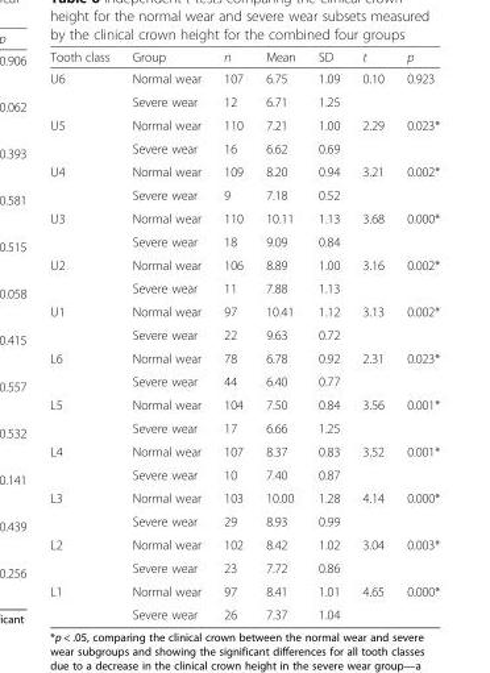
<table><thead><tr><td>Tooth class</td><td>Group</td><td>n</td><td>Mean</td><td>SD</td><td>t</td><td>p</td></tr></thead><tbody><tr><td rowspan="2">U6</td><td>Normal wear</td><td>107</td><td>6.75</td><td>1.09</td><td rowspan="2">0.10</td><td rowspan="2">0.923</td></tr><tr><td>Severe wear</td><td>12</td><td>6.71</td><td>1.25</td></tr><tr><td rowspan="2">U5</td><td>Normal wear</td><td>110</td><td>7.21</td><td>1.00</td><td rowspan="2">2.29</td><td rowspan="2">0.023*</td></tr><tr><td>Severe wear</td><td>16</td><td>6.62</td><td>0.69</td></tr><tr><td rowspan="2">U4</td><td>Normal wear</td><td>109</td><td>8.20</td><td>0.94</td><td rowspan="2">3.21</td><td rowspan="2">0.002*</td></tr><tr><td>Severe wear</td><td>9</td><td>7.18</td><td>0.52</td></tr><tr><td rowspan="2">U3</td><td>Normal wear</td><td>110</td><td>10.11</td><td>1.13</td><td rowspan="2">3.68</td><td rowspan="2">0.000*</td></tr><tr><td>Severe wear</td><td>18</td><td>9.09</td><td>0.84</td></tr><tr><td rowspan="2">U2</td><td>Normal wear</td><td>106</td><td>8.89</td><td>1.00</td><td rowspan="2">3.16</td><td rowspan="2">0.002*</td></tr><tr><td>Severe wear</td><td>11</td><td>7.88</td><td>1.13</td></tr><tr><td rowspan="2">U1</td><td>Normal wear</td><td>97</td><td>10.41</td><td>1.12</td><td rowspan="2">3.13</td><td rowspan="2">0.002*</td></tr><tr><td>Severe wear</td><td>22</td><td>9.63</td><td>0.72</td></tr><tr><td rowspan="2">L6</td><td>Normal wear</td><td>78</td><td>6.78</td><td>0.92</td><td rowspan="2">2.31</td><td rowspan="2">0.023*</td></tr><tr><td>Severe wear</td><td>44</td><td>6.40</td><td>0.77</td></tr><tr><td rowspan="2">L5</td><td>Normal wear</td><td>104</td><td>7.50</td><td>0.84</td><td rowspan="2">3.56</td><td rowspan="2">0.001*</td></tr><tr><td>Severe wear</td><td>17</td><td>6.66</td><td>1.25</td></tr><tr><td rowspan="2">L4</td><td>Normal wear</td><td>107</td><td>8.37</td><td>0.83</td><td rowspan="2">3.52</td><td rowspan="2">0.001*</td></tr><tr><td>Severe wear</td><td>10</td><td>7.40</td><td>0.87</td></tr><tr><td rowspan="2">L3</td><td>Normal wear</td><td>103</td><td>10.00</td><td>1.28</td><td rowspan="2">4.14</td><td rowspan="2">0.000*</td></tr><tr><td>Severe wear</td><td>29</td><td>8.93</td><td>0.99</td></tr><tr><td rowspan="2">L2</td><td>Normal wear</td><td>102</td><td>8.42</td><td>1.02</td><td rowspan="2">3.04</td><td rowspan="2">0.003*</td></tr><tr><td>Severe wear</td><td>23</td><td>7.72</td><td>0.86</td></tr><tr><td rowspan="2">L1</td><td>Normal wear</td><td>97</td><td>8.41</td><td>1.01</td><td rowspan="2">4.65</td><td rowspan="2">0.000*</td></tr><tr><td>Severe wear</td><td>26</td><td>7.37</td><td>1.04</td></tr></tbody></table>